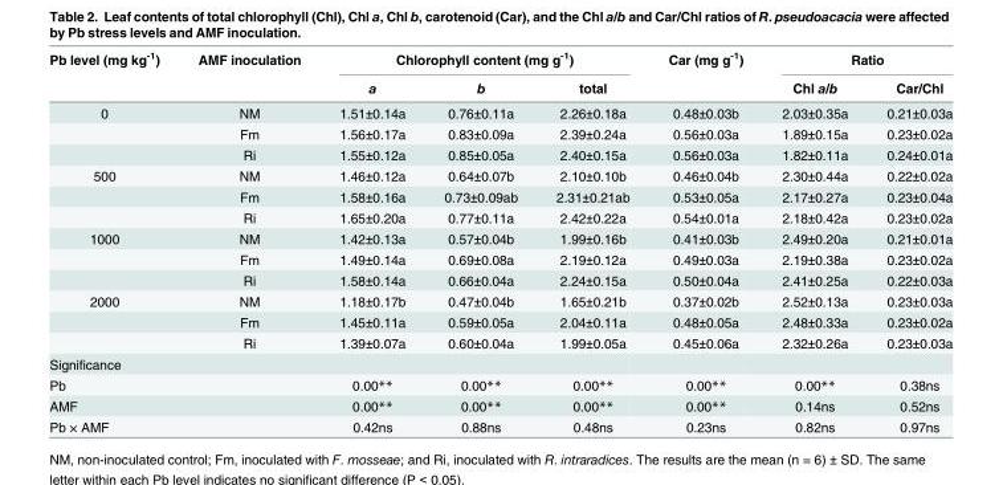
<table><thead><tr><td rowspan="2">Pb level (mg kg<sup>-1</sup>)</td><td rowspan="2">AMF inoculation</td><td colspan="3">Chlorophyll content (mg g<sup>-1</sup>)</td><td rowspan="2">Car (mg g<sup>-1</sup>)</td><td colspan="2">Ratio</td></tr><tr><td>a</td><td>b</td><td>total</td><td>Chl a/b</td><td>Car/Chl</td></tr></thead><tbody><tr><td rowspan="3">0</td><td>NM</td><td>1.51±0.14a</td><td>0.76±0.11a</td><td>2.26±0.18a</td><td>0.48±0.03b</td><td>2.03±0.35a</td><td>0.21±0.03a</td></tr><tr><td>Fm</td><td>1.56±0.17a</td><td>0.83±0.09a</td><td>2.39±0.24a</td><td>0.56±0.03a</td><td>1.89±0.15a</td><td>0.23±0.02a</td></tr><tr><td>Ri</td><td>1.55±0.12a</td><td>0.85±0.05a</td><td>2.40±0.15a</td><td>0.56±0.03a</td><td>1.82±0.11a</td><td>0.24±0.01a</td></tr><tr><td rowspan="3">500</td><td>NM</td><td>1.46±0.12a</td><td>0.64±0.07b</td><td>2.10±0.10b</td><td>0.46±0.04b</td><td>2.30±0.44a</td><td>0.22±0.02a</td></tr><tr><td>Fm</td><td>1.58±0.16a</td><td>0.73±0.09ab</td><td>2.31±0.21ab</td><td>0.53±0.05a</td><td>2.17±0.27a</td><td>0.23±0.04a</td></tr><tr><td>Ri</td><td>1.65±0.20a</td><td>0.77±0.11a</td><td>2.42±0.22a</td><td>0.54±0.01a</td><td>2.18±0.42a</td><td>0.23±0.02a</td></tr><tr><td rowspan="3">1000</td><td>NM</td><td>1.42±0.13a</td><td>0.57±0.04b</td><td>1.99±0.16b</td><td>0.41±0.03b</td><td>2.49±0.20a</td><td>0.21±0.01a</td></tr><tr><td>Fm</td><td>1.49±0.14a</td><td>0.69±0.08a</td><td>2.19±0.12a</td><td>0.49±0.03a</td><td>2.19±0.38a</td><td>0.23±0.02a</td></tr><tr><td>Ri</td><td>1.58±0.14a</td><td>0.66±0.04a</td><td>2.24±0.15a</td><td>0.50±0.04a</td><td>2.41±0.25a</td><td>0.22±0.03a</td></tr><tr><td rowspan="3">2000</td><td>NM</td><td>1.18±0.17b</td><td>0.47±0.04b</td><td>1.65±0.21b</td><td>0.37±0.02b</td><td>2.52±0.13a</td><td>0.23±0.03a</td></tr><tr><td>Fm</td><td>1.45±0.11a</td><td>0.59±0.05a</td><td>2.04±0.11a</td><td>0.48±0.05a</td><td>2.48±0.33a</td><td>0.23±0.02a</td></tr><tr><td>Ri</td><td>1.39±0.07a</td><td>0.60±0.04a</td><td>1.99±0.05a</td><td>0.45±0.06a</td><td>2.32±0.26a</td><td>0.23±0.03a</td></tr><tr><td colspan="8">Significance</td></tr><tr><td colspan="2">Pb</td><td>0.00**</td><td>0.00**</td><td>0.00**</td><td>0.00**</td><td>0.00**</td><td>0.38ns</td></tr><tr><td colspan="2">AMF</td><td>0.00**</td><td>0.00**</td><td>0.00**</td><td>0.00**</td><td>0.14ns</td><td>0.52ns</td></tr><tr><td colspan="2">Pb × AMF</td><td>0.42ns</td><td>0.88ns</td><td>0.48ns</td><td>0.23ns</td><td>0.82ns</td><td>0.97ns</td></tr></tbody></table>